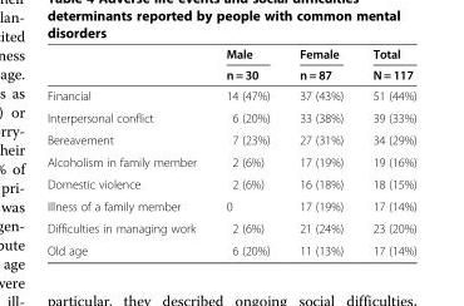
<table><thead><tr><td rowspan="2"></td><td rowspan="2">Male n = 30</td><td rowspan="2">Female n = 87</td><td rowspan="2">Total N = 117</td></tr><tr></tr></thead><tbody><tr><td>Financial</td><td>14 (47%)</td><td>37 (43%)</td><td>51 (44%)</td></tr><tr><td>Interpersonal conflict</td><td>6 (20%)</td><td>33 (38%)</td><td>39 (33%)</td></tr><tr><td>Bereavement</td><td>7 (23%)</td><td>27 (31%)</td><td>34 (29%)</td></tr><tr><td>Alcoholism in family member</td><td>2 (6%)</td><td>17 (19%)</td><td>19 (16%)</td></tr><tr><td>Domestic violence</td><td>2 (6%)</td><td>16 (18%)</td><td>18 (15%)</td></tr><tr><td>Illness of a family member</td><td>0</td><td>17 (19%)</td><td>17 (14%)</td></tr><tr><td>Difficulties in managing work</td><td>2 (6%)</td><td>21 (24%)</td><td>23 (20%)</td></tr><tr><td>Old age</td><td>6 (20%)</td><td>11 (13%)</td><td>17 (14%)</td></tr></tbody></table>